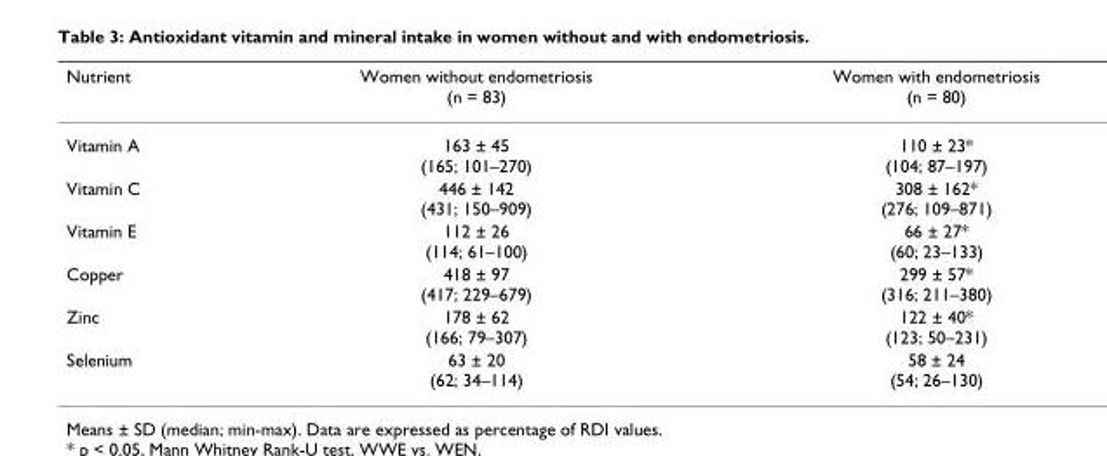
<table><thead><tr><td>Nutrient</td><td>Women without endometriosis (n = 83)</td><td>Women with endometriosis (n = 80)</td></tr></thead><tbody><tr><td>Vitamin A</td><td>163 ± 45 (165; 101–270)</td><td>110 ± 23* (104; 87–197)</td></tr><tr><td>Vitamin C</td><td>446 ± 142 (431; 150–909)</td><td>308 ± 162* (276; 109–871)</td></tr><tr><td>Vitamin E</td><td>112 ± 26 (114; 61–100)</td><td>66 ± 27* (60; 23–133)</td></tr><tr><td>Copper</td><td>418 ± 97 (417; 229–679)</td><td>299 ± 57* (316; 211–380)</td></tr><tr><td>Zinc</td><td>178 ± 62 (166; 79–307)</td><td>122 ± 40* (123; 50–231)</td></tr><tr><td>Selenium</td><td>63 ± 20 (62; 34–114)</td><td>58 ± 24 (54; 26–130)</td></tr></tbody></table>